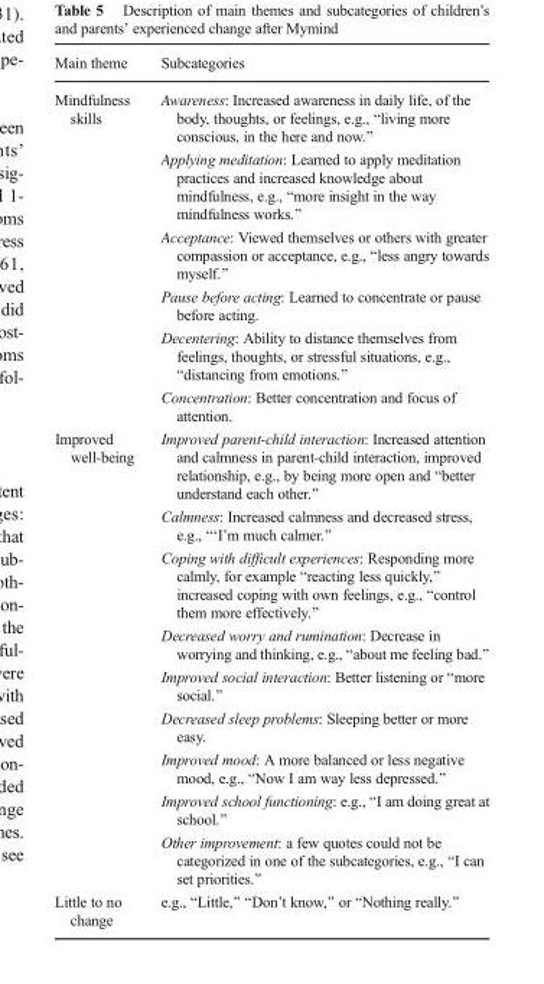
<table><thead><tr><td>Main theme</td><td>Subcategories</td></tr></thead><tbody><tr><td rowspan="6">Mindfulness skills</td><td>Awareness: Increased awareness in daily life, of the body, thoughts, or feelings, e.g., “living more conscious, in the here and now.”</td></tr><tr><td>Applying meditation: Learned to apply meditation practices and increased knowledge about mindfulness, e.g., “more insight in the way mindfulness works.”</td></tr><tr><td>Acceptance: Viewed themselves or others with greater compassion or acceptance, e.g., “less angry towards myself.”</td></tr><tr><td>Pause before acting: Learned to concentrate or pause before acting.</td></tr><tr><td>Decentering: Ability to distance themselves from feelings, thoughts, or stressful situations, e.g., “distancing from emotions.”</td></tr><tr><td>Concentration: Better concentration and focus of attention.</td></tr><tr><td rowspan="9">Improved well-being</td><td>Improved parent-child interaction: Increased attention and calmness in parent-child interaction, improved relationship, e.g., by being more open and “better understand each other.”</td></tr><tr><td>Calmness: Increased calmness and decreased stress, e.g., “‘I’m much calmer.”</td></tr><tr><td>Coping with difficult experiences: Responding more calmly, for example “reacting less quickly,” increased coping with own feelings, e.g., “control them more effectively.”</td></tr><tr><td>Decreased worry and rumination: Decrease in worrying and thinking, e.g., “about me feeling bad.”</td></tr><tr><td>Improved social interaction: Better listening or “more social.”</td></tr><tr><td>Decreased sleep problems: Sleeping better or more easy.</td></tr><tr><td>Improved mood: A more balanced or less negative mood, e.g., “Now I am way less depressed.”</td></tr><tr><td>Improved school functioning: e.g., “I am doing great at school.”</td></tr><tr><td>Other improvement: a few quotes could not be categorized in one of the subcategories, e.g., “I can set priorities.”</td></tr><tr><td>Little to no change</td><td>e.g., “Little,” “Don’t know,” or “Nothing really.”</td></tr></tbody></table>